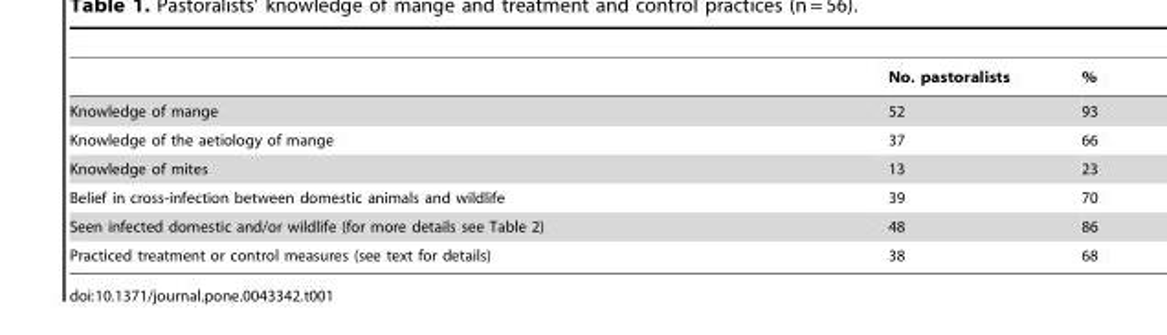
<table><thead><tr><td></td><td>No. pastoralists</td><td>%</td></tr></thead><tbody><tr><td>Knowledge of mange</td><td>52</td><td>93</td></tr><tr><td>Knowledge of the aetiology of mange</td><td>37</td><td>66</td></tr><tr><td>Knowledge of mites</td><td>13</td><td>23</td></tr><tr><td>Belief in cross-infection between domestic animals and wildlife</td><td>39</td><td>70</td></tr><tr><td>Seen infected domestic and/or wildlife (for more details see Table 2)</td><td>48</td><td>86</td></tr><tr><td>Practiced treatment or control measures (see text for details)</td><td>38</td><td>68</td></tr></tbody></table>